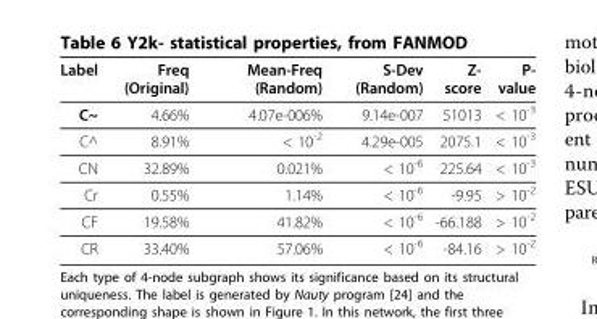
<table><thead><tr><td>Label</td><td>Freq (Original)</td><td>Mean-Freq (Random)</td><td>S-Dev (Random)</td><td>Z- score</td><td>P- value</td></tr></thead><tbody><tr><td>C~</td><td>4.66%</td><td>4.07e-006%</td><td>9.14e-007</td><td>51013</td><td>&lt; 10<sup>-3</sup></td></tr><tr><td>C^</td><td>8.91%</td><td>&lt; 10<sup>-2</sup></td><td>4.29e-005</td><td>2075.1</td><td>&lt; 10<sup>-3</sup></td></tr><tr><td>CN</td><td>32.89%</td><td>0.021%</td><td>&lt; 10<sup>-6</sup></td><td>225.64</td><td>&lt; 10<sup>-3</sup></td></tr><tr><td>Cr</td><td>0.55%</td><td>1.14%</td><td>&lt; 10<sup>-6</sup></td><td>-9.95</td><td>&gt; 10<sup>-2</sup></td></tr><tr><td>CF</td><td>19.58%</td><td>41.82%</td><td>&lt; 10<sup>-6</sup></td><td>-66.188</td><td>&gt; 10<sup>-2</sup></td></tr><tr><td>CR</td><td>33.40%</td><td>57.06%</td><td>&lt; 10<sup>-6</sup></td><td>-84.16</td><td>&gt; 10<sup>-2</sup></td></tr></tbody></table>